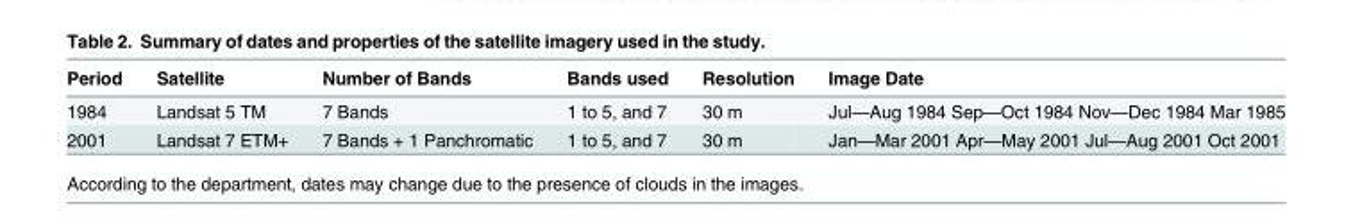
<table><thead><tr><td>Period</td><td>Satellite</td><td>Number of Bands</td><td>Bands used</td><td>Resolution</td><td>Image Date</td></tr></thead><tbody><tr><td>1984</td><td>Landsat 5 TM</td><td>7 Bands</td><td>1 to 5, and 7</td><td>30 m</td><td>Jul—Aug 1984 Sep—Oct 1984 Nov—Dec 1984 Mar 1985</td></tr><tr><td>2001</td><td>Landsat 7 ETM+</td><td>7 Bands + 1 Panchromatic</td><td>1 to 5, and 7</td><td>30 m</td><td>Jan—Mar 2001 Apr—May 2001 Jul—Aug 2001 Oct 2001</td></tr></tbody></table>